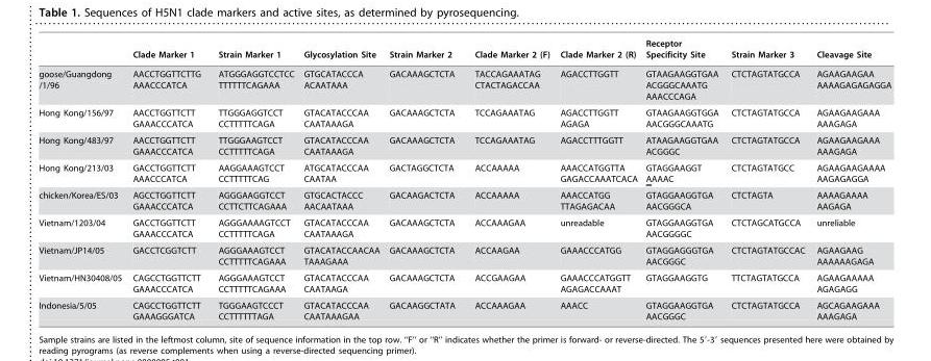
<table><thead><tr><td></td><td>Clade Marker 1</td><td>Strain Marker 1</td><td>Glycosylation Site</td><td>Strain Marker 2</td><td>Clade Marker 2 (F)</td><td>Clade Marker 2 (R)</td><td>Receptor Specificity Site</td><td>Strain Marker 3</td><td>Cleavage Site</td></tr></thead><tbody><tr><td>goose/Guangdong /1/96</td><td>AACCTGGTTCTTG AAACCCATCA</td><td>ATGGGAGGTCCTCC TTTTTTCAGAAA</td><td>GTGCATACCCA ACAATAAA</td><td>GACAAAGCTCTA</td><td>TACCAGAAATAG CTACTAGACCAA</td><td>AGACCTTGGTT</td><td>GTAAGAAGGTGAA ACGGGCAAATG AAACCCAGA</td><td>CTCTAGTATGCCA</td><td>AGAAGAAGAA AAAAGAGAGAGGA</td></tr><tr><td>Hong Kong/156/97</td><td>AACCTGGTTCTT GAAACCCATCA</td><td>TTGGGAGGTCCT CCTTTTTCAGA</td><td>GTACATACCCAA CAATAAAGA</td><td>GACAAAGCTCTA</td><td>TCCAGAAATAG</td><td>AGACCTTGGTT AGAGA</td><td>GTAAGAAGGTGGA AACGGGCAAATG</td><td>CTCTAGTATGCCA</td><td>AGAAGAAGAAA AAAGAGA</td></tr><tr><td>Hong Kong/483/97</td><td>AACCTGGTTCTT GAAACCCATCA</td><td>TTGGGAAGTCCT CCTTTTTCAGA</td><td>GTACATACCCAA CAATAAAGA</td><td>GACAAAGCTCTA</td><td>TCCAGAAATAG</td><td>AGACCTTTGGTT</td><td>ATAAGAAGGTGAA ACGGGC</td><td>CTCTAGTATGCCA</td><td>AGAAGAAGAAA AAAGAGA</td></tr><tr><td>Hong Kong/213/03</td><td>GACCTGGTTCTT AAACCCATCA</td><td>AAGGAAAGTCCT CCTTTTTCAG</td><td>ATGCATACCCAA CAATAA</td><td>GACTAGGCTCTA</td><td>ACCAAAAA</td><td>AAACCATGGTTA GAGACCAAATCACA</td><td>GTAGGAAGGT AAAAC</td><td>CTCTAGTATGCC</td><td>AGAAGAAGAAAA AAGAGAGGA</td></tr><tr><td>chicken/Korea/ES/03</td><td>AGCCTGGTTCTT GAAACCCATCA</td><td>AGGGAAGGTCCT CCTTCTTCAGAAA</td><td>GTGCACTACCC AACAATAAA</td><td>GACAAGACTCTA</td><td>ACCAAAAA</td><td>AAACCATGG TTAGAGACAA</td><td>GTAGGAAGGTGA AACGGGCA</td><td>CTCTAGTA</td><td>AAAAGAAAA AAGAGA</td></tr><tr><td>Vietnam/1203/04</td><td>GACCTGGTTCTT GAAACCCATCA</td><td>AGGGAAAAGTCCT CCTTTTTCAGA</td><td>GTACATACCCAA CAATAAAGA</td><td>GACAAAGCTCTA</td><td>ACCAAAGAA</td><td>unreadable</td><td>GTAGGAAGGTGA AACGGGGC</td><td>CTCTAGCATGCCA</td><td>unreliable</td></tr><tr><td>Vietnam/JP14/05</td><td>GACCTCGGTCTT</td><td>AGGGAAAGTCCT CCTTTTTCAGAAA</td><td>GTACATACCAACAA TAAAGAAA</td><td>GACAAAGCTCTA</td><td>ACCAAGAA</td><td>GAAACCCATGG</td><td>GTAGGAGGGTGA AACGGGC</td><td>CTCTAGTATGCCAC</td><td>AGAAGAAG AAAAAAGAGA</td></tr><tr><td>Vietnam/HN30408/05</td><td>CAGCCTGGTTCTT GAAACCCATCA</td><td>AGGGAAAGTCCT CCTTTTTCAGAAA</td><td>GTACATACCCAA CAATAAGA</td><td>GACAAAGCTCTA</td><td>ACCGAAGAA</td><td>GAAACCCATGGTT AGAGACCAAAT</td><td>GTAGGAAGGTG</td><td>TTCTAGTATGCCA</td><td>AGAAGAAAAA AGAGAGG</td></tr><tr><td>Indonesia/5/05</td><td>CAGCCTGGTTCTT GAAAGGGATCA</td><td>TGGGAAGTCCCT CCTTTTTTAGA</td><td>GTACATACCCAA CAATAAAGAA</td><td>GACAAGGCTATA</td><td>ACCAAAGAA</td><td>AAACC</td><td>GTAGGAAGGTGA AACGGGC</td><td>CTCTAGTATGCCA</td><td>AGCAGAAGAAA AAAGAGA</td></tr></tbody></table>